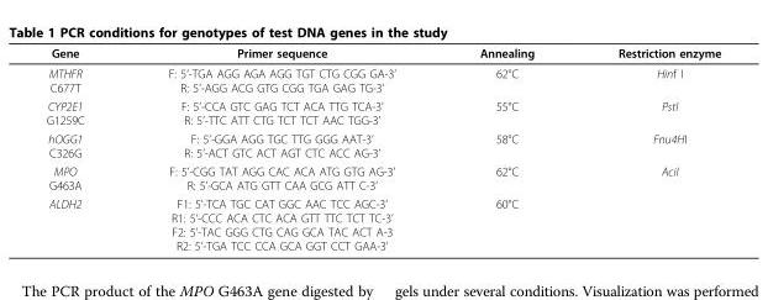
<table><thead><tr><td>Gene</td><td>Primer sequence</td><td>Annealing</td><td>Restriction enzyme</td></tr></thead><tbody><tr><td>MTHFR C677T</td><td>F: 5’-TGA AGG AGA AGG TGT CTG CGG GA-3’ R: 5’-AGG ACG GTG CGG TGA GAG TG-3’</td><td>62°C</td><td>Hinf I</td></tr><tr><td>CYP2E1 G1259C</td><td>F: 5’-CCA GTC GAG TCT ACA TTG TCA-3’ R: 5’-TTC ATT CTG TCT TCT AAC TGG-3’</td><td>55°C</td><td>PstI</td></tr><tr><td>hOGG1 C326G</td><td>F: 5’-GGA AGG TGC TTG GGG AAT-3’ R: 5’-ACT GTC ACT AGT CTC ACC AG-3’</td><td>58°C</td><td>Fnu4HI</td></tr><tr><td>MPO G463A</td><td>F: 5’-CGG TAT AGG CAC ACA ATG GTG AG-3’ R: 5’-GCA ATG GTT CAA GCG ATT C-3’</td><td>62°C</td><td>AciI</td></tr><tr><td>ALDH2</td><td>F1: 5’-TCA TGC CAT GGC AAC TCC AGC-3’ R1: 5’-CCC ACA CTC ACA GTT TTC TCT TC-3’ F2: 5’-TAC GGG CTG CAG GCA TAC ACT A-3 R2: 5’-TGA TCC CCA GCA GGT CCT GAA-3’</td><td>60°C</td><td></td></tr></tbody></table>